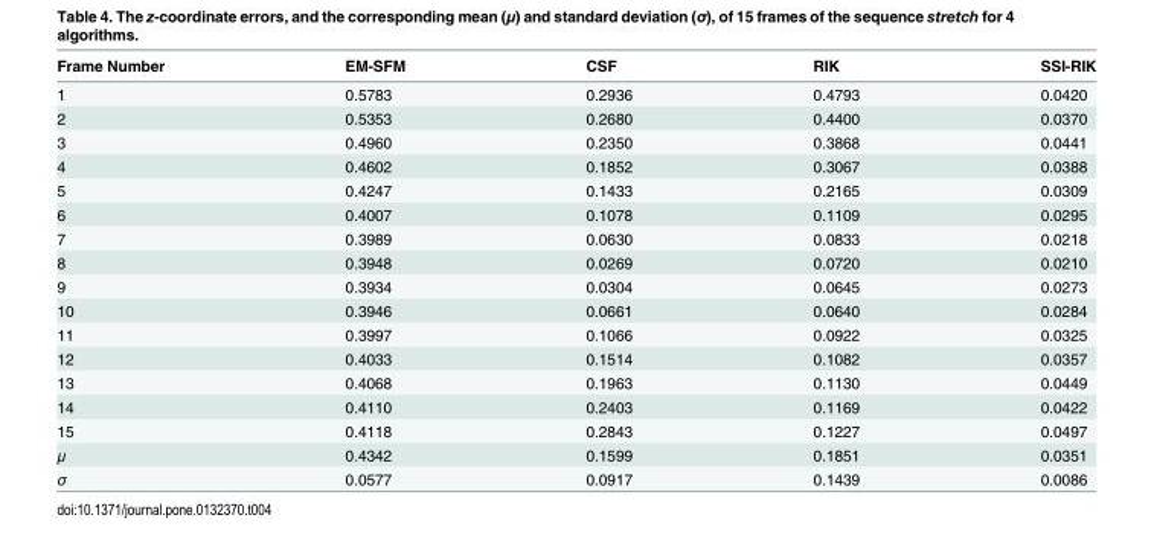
<table><thead><tr><td>Frame Number</td><td>EM-SFM</td><td>CSF</td><td>RIK</td><td>SSI-RIK</td></tr></thead><tbody><tr><td>1</td><td>0.5783</td><td>0.2936</td><td>0.4793</td><td>0.0420</td></tr><tr><td>2</td><td>0.5353</td><td>0.2680</td><td>0.4400</td><td>0.0370</td></tr><tr><td>3</td><td>0.4960</td><td>0.2350</td><td>0.3868</td><td>0.0441</td></tr><tr><td>4</td><td>0.4602</td><td>0.1852</td><td>0.3067</td><td>0.0388</td></tr><tr><td>5</td><td>0.4247</td><td>0.1433</td><td>0.2165</td><td>0.0309</td></tr><tr><td>6</td><td>0.4007</td><td>0.1078</td><td>0.1109</td><td>0.0295</td></tr><tr><td>7</td><td>0.3989</td><td>0.0630</td><td>0.0833</td><td>0.0218</td></tr><tr><td>8</td><td>0.3948</td><td>0.0269</td><td>0.0720</td><td>0.0210</td></tr><tr><td>9</td><td>0.3934</td><td>0.0304</td><td>0.0645</td><td>0.0273</td></tr><tr><td>10</td><td>0.3946</td><td>0.0661</td><td>0.0640</td><td>0.0284</td></tr><tr><td>11</td><td>0.3997</td><td>0.1066</td><td>0.0922</td><td>0.0325</td></tr><tr><td>12</td><td>0.4033</td><td>0.1514</td><td>0.1082</td><td>0.0357</td></tr><tr><td>13</td><td>0.4068</td><td>0.1963</td><td>0.1130</td><td>0.0449</td></tr><tr><td>14</td><td>0.4110</td><td>0.2403</td><td>0.1169</td><td>0.0422</td></tr><tr><td>15</td><td>0.4118</td><td>0.2843</td><td>0.1227</td><td>0.0497</td></tr><tr><td>μ</td><td>0.4342</td><td>0.1599</td><td>0.1851</td><td>0.0351</td></tr><tr><td>σ</td><td>0.0577</td><td>0.0917</td><td>0.1439</td><td>0.0086</td></tr></tbody></table>